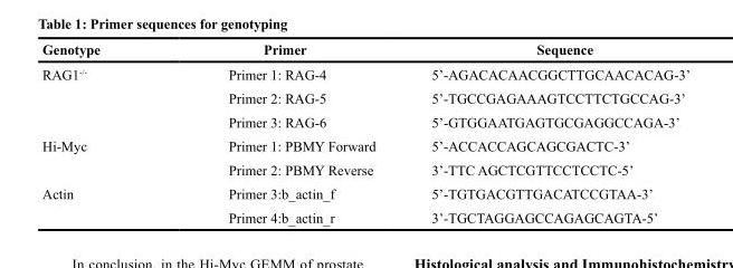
<table><thead><tr><td>Genotype</td><td>Primer</td><td>Sequence</td></tr></thead><tbody><tr><td rowspan="3">RAG1<sup>-/-</sup></td><td>Primer 1: RAG-4</td><td>5’-AGACACAACGGCTTGCAACACAG-3’</td></tr><tr><td>Primer 2: RAG-5</td><td>5’-TGCCGAGAAAGTCCTTCTGCCAG-3’</td></tr><tr><td>Primer 3: RAG-6</td><td>5’-GTGGAATGAGTGCGAGGCCAGA-3’</td></tr><tr><td rowspan="2">Hi-Myc</td><td>Primer 1: PBMY Forward</td><td>5’-ACCACCAGCAGCGACTC-3’</td></tr><tr><td>Primer 2: PBMY Reverse</td><td>3’-TTC AGCTCGTTCCTCCTC-5’</td></tr><tr><td rowspan="2">Actin</td><td>Primer 3:b_actin_f</td><td>5’-TGTGACGTTGACATCCGTAA-3’</td></tr><tr><td>Primer 4:b_actin_r</td><td>3’-TGCTAGGAGCCAGAGCAGTA-5’</td></tr></tbody></table>